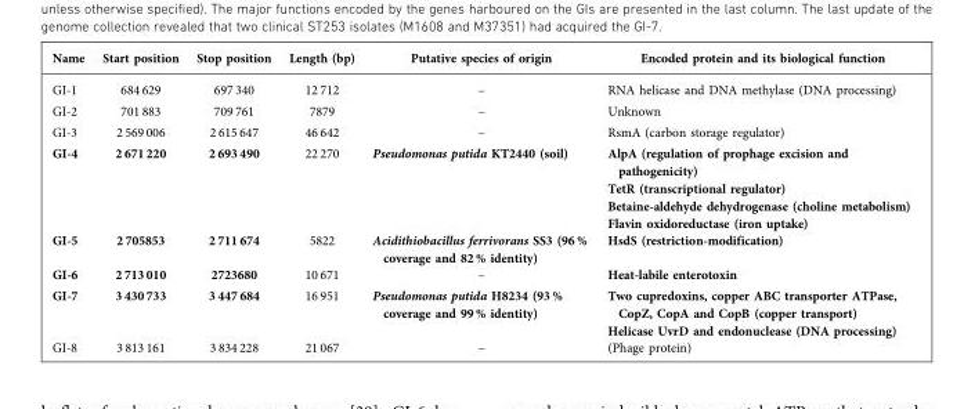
<table><thead><tr><td>Name</td><td>Start position</td><td>Stop position</td><td>Length (bp)</td><td>Putative species of origin</td><td>Encoded protein and its biological function</td></tr></thead><tbody><tr><td>GI-1</td><td>684 629</td><td>697 340</td><td>12 712</td><td>–</td><td>RNA helicase and DNA methylase (DNA processing)</td></tr><tr><td>GI-2</td><td>701 883</td><td>709 761</td><td>7879</td><td>–</td><td>Unknown</td></tr><tr><td>GI-3</td><td>2 569 006</td><td>2 615 647</td><td>46 642</td><td>–</td><td>RsmA (carbon storage regulator)</td></tr><tr><td>GI-4</td><td>2 671 220</td><td>2 693 490</td><td>22 270</td><td>Pseudomonas putida KT2440 (soil)</td><td>AlpA (regulation of prophage excision and pathogenicity) TetR (transcriptional regulator) Betaine-aldehyde dehydrogenase (choline metabolism) Flavin oxidoreductase (iron uptake)</td></tr><tr><td>GI-5</td><td>2 705853</td><td>2 711 674</td><td>5822</td><td>Acidithiobacillus ferrivorans SS3 (96 % coverage and 82 % identity)</td><td>HsdS (restriction-modification)</td></tr><tr><td>GI-6</td><td>2 713 010</td><td>2723680</td><td>10 671</td><td>–</td><td>Heat-labile enterotoxin</td></tr><tr><td>GI-7</td><td>3 430 733</td><td>3 447 684</td><td>16 951</td><td>Pseudomonas putida H8234 (93 % coverage and 99 % identity)</td><td>Two cupredoxins, copper ABC transporter ATPase, CopZ, CopA and CopB (copper transport) Helicase UvrD and endonuclease (DNA processing)</td></tr><tr><td>GI-8</td><td>3 813 161</td><td>3 834 228</td><td>21 067</td><td>–</td><td>(Phage protein)</td></tr></tbody></table>